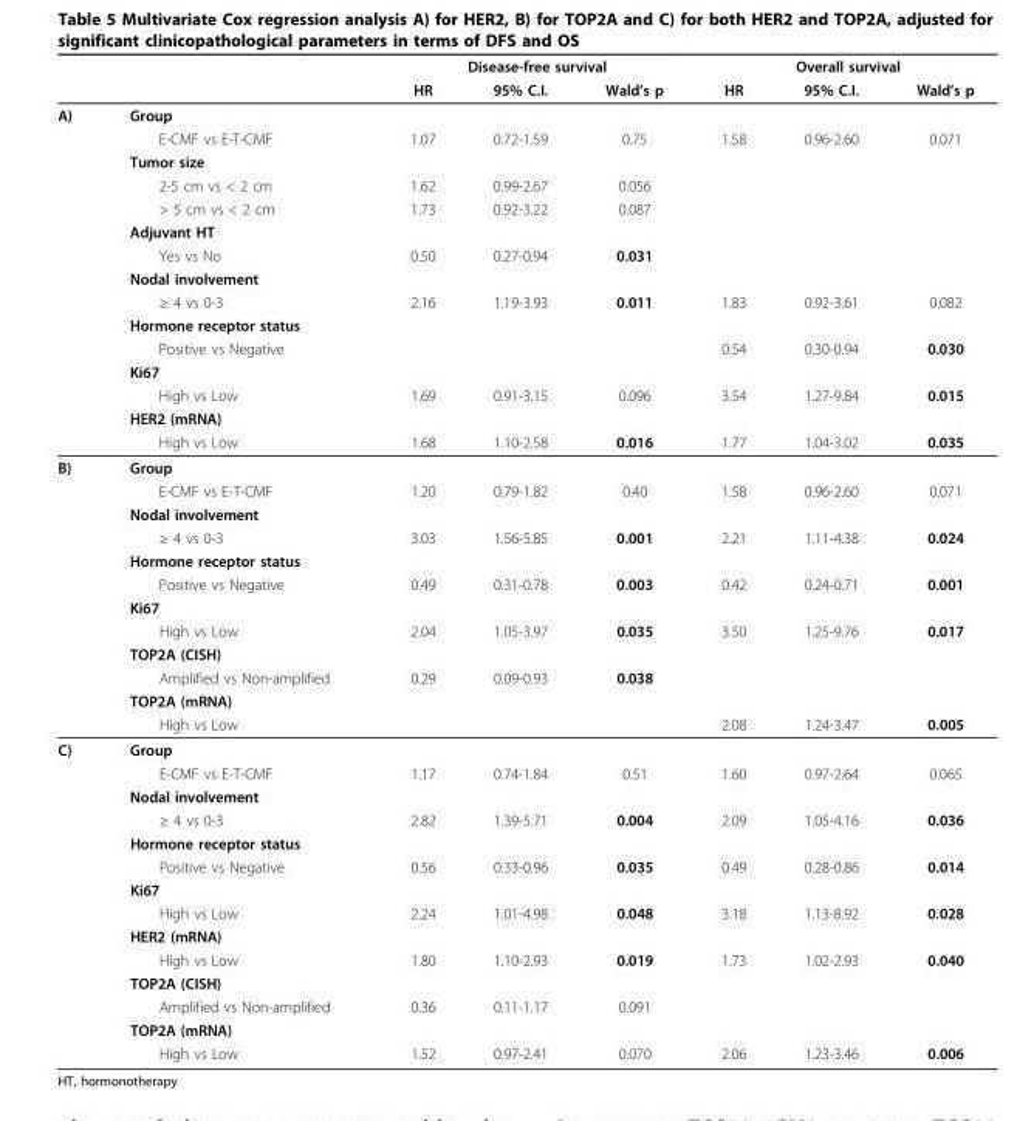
<table><thead><tr><td rowspan="2"></td><td rowspan="2"></td><td colspan="3">Disease-free survival</td><td colspan="3">Overall survival</td></tr><tr><td>HR</td><td>95% C.I.</td><td>Wald’s p</td><td>HR</td><td>95% C.I.</td><td>Wald’s p</td></tr></thead><tbody><tr><td rowspan="15">A)</td><td>Group</td><td></td><td></td><td></td><td></td><td></td><td></td></tr><tr><td>E-CMF vs E-T-CMF</td><td>1.07</td><td>0.72-1.59</td><td>0.75</td><td>1.58</td><td>0.96-2.60</td><td>0.071</td></tr><tr><td>Tumor size</td><td></td><td></td><td></td><td></td><td></td><td></td></tr><tr><td>2-5 cm vs &lt; 2 cm</td><td>1.62</td><td>0.99-2.67</td><td>0.056</td><td></td><td></td><td></td></tr><tr><td>&gt; 5 cm vs &lt; 2 cm</td><td>1.73</td><td>0.92-3.22</td><td>0.087</td><td></td><td></td><td></td></tr><tr><td>Adjuvant HT</td><td></td><td></td><td></td><td></td><td></td><td></td></tr><tr><td>Yes vs No</td><td>0.50</td><td>0.27-0.94</td><td>0.031</td><td></td><td></td><td></td></tr><tr><td>Nodal involvement</td><td></td><td></td><td></td><td></td><td></td><td></td></tr><tr><td>≥ 4 vs 0-3</td><td>2.16</td><td>1.19-3.93</td><td>0.011</td><td>1.83</td><td>0.92-3.61</td><td>0.082</td></tr><tr><td>Hormone receptor status</td><td></td><td></td><td></td><td></td><td></td><td></td></tr><tr><td>Positive vs Negative</td><td></td><td></td><td></td><td>0.54</td><td>0.30-0.94</td><td>0.030</td></tr><tr><td>Ki67</td><td></td><td></td><td></td><td></td><td></td><td></td></tr><tr><td>High vs Low</td><td>1.69</td><td>0.91-3.15</td><td>0.096</td><td>3.54</td><td>1.27-9.84</td><td>0.015</td></tr><tr><td>HER2 (mRNA)</td><td></td><td></td><td></td><td></td><td></td><td></td></tr><tr><td>High vs Low</td><td>1.68</td><td>1.10-2.58</td><td>0.016</td><td>1.77</td><td>1.04-3.02</td><td>0.035</td></tr><tr><td rowspan="12">B)</td><td>Group</td><td></td><td></td><td></td><td></td><td></td><td></td></tr><tr><td>E-CMF vs E-T-CMF</td><td>1.20</td><td>0.79-1.82</td><td>0.40</td><td>1.58</td><td>0.96-2.60</td><td>0.071</td></tr><tr><td>Nodal involvement</td><td></td><td></td><td></td><td></td><td></td><td></td></tr><tr><td>≥ 4 vs 0-3</td><td>3.03</td><td>1.56-5.85</td><td>0.001</td><td>2.21</td><td>1.11-4.38</td><td>0.024</td></tr><tr><td>Hormone receptor status</td><td></td><td></td><td></td><td></td><td></td><td></td></tr><tr><td>Positive vs Negative</td><td>0.49</td><td>0.31-0.78</td><td>0.003</td><td>0.42</td><td>0.24-0.71</td><td>0.001</td></tr><tr><td>Ki67</td><td></td><td></td><td></td><td></td><td></td><td></td></tr><tr><td>High vs Low</td><td>2.04</td><td>1.05-3.97</td><td>0.035</td><td>3.50</td><td>1.25-9.76</td><td>0.017</td></tr><tr><td>TOP2A (CISH)</td><td></td><td></td><td></td><td></td><td></td><td></td></tr><tr><td>Amplified vs Non-amplified</td><td>0.29</td><td>0.09-0.93</td><td>0.038</td><td></td><td></td><td></td></tr><tr><td>TOP2A (mRNA)</td><td></td><td></td><td></td><td></td><td></td><td></td></tr><tr><td>High vs Low</td><td></td><td></td><td></td><td>2.08</td><td>1.24-3.47</td><td>0.005</td></tr><tr><td rowspan="14">C)</td><td>Group</td><td></td><td></td><td></td><td></td><td></td><td></td></tr><tr><td>E-CMF vs E-T-CMF</td><td>1.17</td><td>0.74-1.84</td><td>0.51</td><td>1.60</td><td>0.97-2.64</td><td>0.065</td></tr><tr><td>Nodal involvement</td><td></td><td></td><td></td><td></td><td></td><td></td></tr><tr><td>≥ 4 vs 0-3</td><td>2.82</td><td>1.39-5.71</td><td>0.004</td><td>2.09</td><td>1.05-4.16</td><td>0.036</td></tr><tr><td>Hormone receptor status</td><td></td><td></td><td></td><td></td><td></td><td></td></tr><tr><td>Positive vs Negative</td><td>0.56</td><td>0.33-0.96</td><td>0.035</td><td>0.49</td><td>0.28-0.86</td><td>0.014</td></tr><tr><td>Ki67</td><td></td><td></td><td></td><td></td><td></td><td></td></tr><tr><td>High vs Low</td><td>2.24</td><td>1.01-4.98</td><td>0.048</td><td>3.18</td><td>1.13-8.92</td><td>0.028</td></tr><tr><td>HER2 (mRNA)</td><td></td><td></td><td></td><td></td><td></td><td></td></tr><tr><td>High vs Low</td><td>1.80</td><td>1.10-2.93</td><td>0.019</td><td>1.73</td><td>1.02-2.93</td><td>0.040</td></tr><tr><td>TOP2A (CISH)</td><td></td><td></td><td></td><td></td><td></td><td></td></tr><tr><td>Amplified vs Non-amplified</td><td>0.36</td><td>0.11-1.17</td><td>0.091</td><td></td><td></td><td></td></tr><tr><td>TOP2A (mRNA)</td><td></td><td></td><td></td><td></td><td></td><td></td></tr><tr><td>High vs Low</td><td>1.52</td><td>0.97-2.41</td><td>0.070</td><td>2.06</td><td>1.23-3.46</td><td>0.006</td></tr></tbody></table>